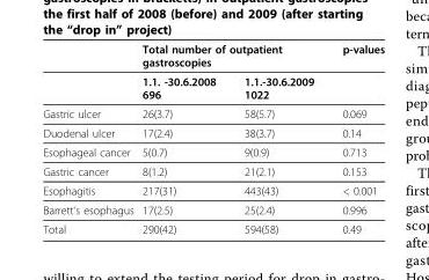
<table><thead><tr><td rowspan="2"></td><td colspan="2">Total number of outpatient gastroscopies</td><td rowspan="2">p-values</td></tr><tr><td>1.1. -30.6.2008 696</td><td>1.1.-30.6.2009 1022</td></tr></thead><tbody><tr><td>Gastric ulcer</td><td>26(3.7)</td><td>58(5.7)</td><td>0.069</td></tr><tr><td>Duodenal ulcer</td><td>17(2.4)</td><td>38(3.7)</td><td>0.14</td></tr><tr><td>Esophageal cancer</td><td>5(0.7)</td><td>9(0.9)</td><td>0.713</td></tr><tr><td>Gastric cancer</td><td>8(1.2)</td><td>21(2.1)</td><td>0.153</td></tr><tr><td>Esophagitis</td><td>217(31)</td><td>443(43)</td><td>&lt; 0.001</td></tr><tr><td>Barrett’s esophagus</td><td>17(2.5)</td><td>25(2.4)</td><td>0.996</td></tr><tr><td>Total</td><td>290(42)</td><td>594(58)</td><td>0.49</td></tr></tbody></table>